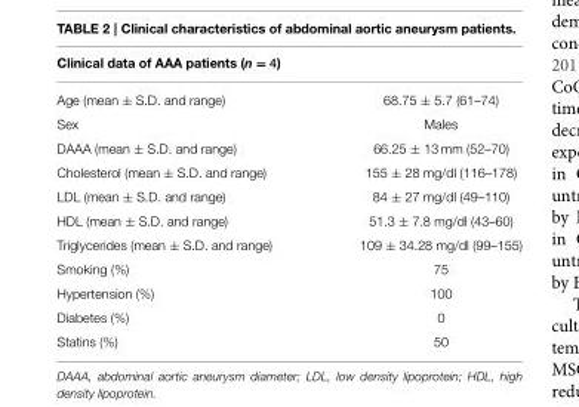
<table><thead><tr><td colspan="2">Clinical data of AAA patients (n = 4)</td></tr><tr><td>Age (mean ± S.D. and range)</td><td>68.75 ± 5.7 (61–74)</td></tr></thead><tbody><tr><td>Sex</td><td>Males</td></tr><tr><td>DAAA (mean ± S.D. and range)</td><td>66.25 ± 13 mm (52–70)</td></tr><tr><td>Cholesterol (mean ± S.D. and range)</td><td>155 ± 28 mg/dl (116–178)</td></tr><tr><td>LDL (mean ± S.D. and range)</td><td>84 ± 27 mg/dl (49–110)</td></tr><tr><td>HDL (mean ± S.D. and range)</td><td>51.3 ± 7.8 mg/dl (43–60)</td></tr><tr><td>Triglycerides (mean ± S.D. and range)</td><td>109 ± 34.28 mg/dl (99–155)</td></tr><tr><td>Smoking (%)</td><td>75</td></tr><tr><td>Hypertension (%)</td><td>100</td></tr><tr><td>Diabetes (%)</td><td>0</td></tr><tr><td>Statins (%)</td><td>50</td></tr></tbody></table>